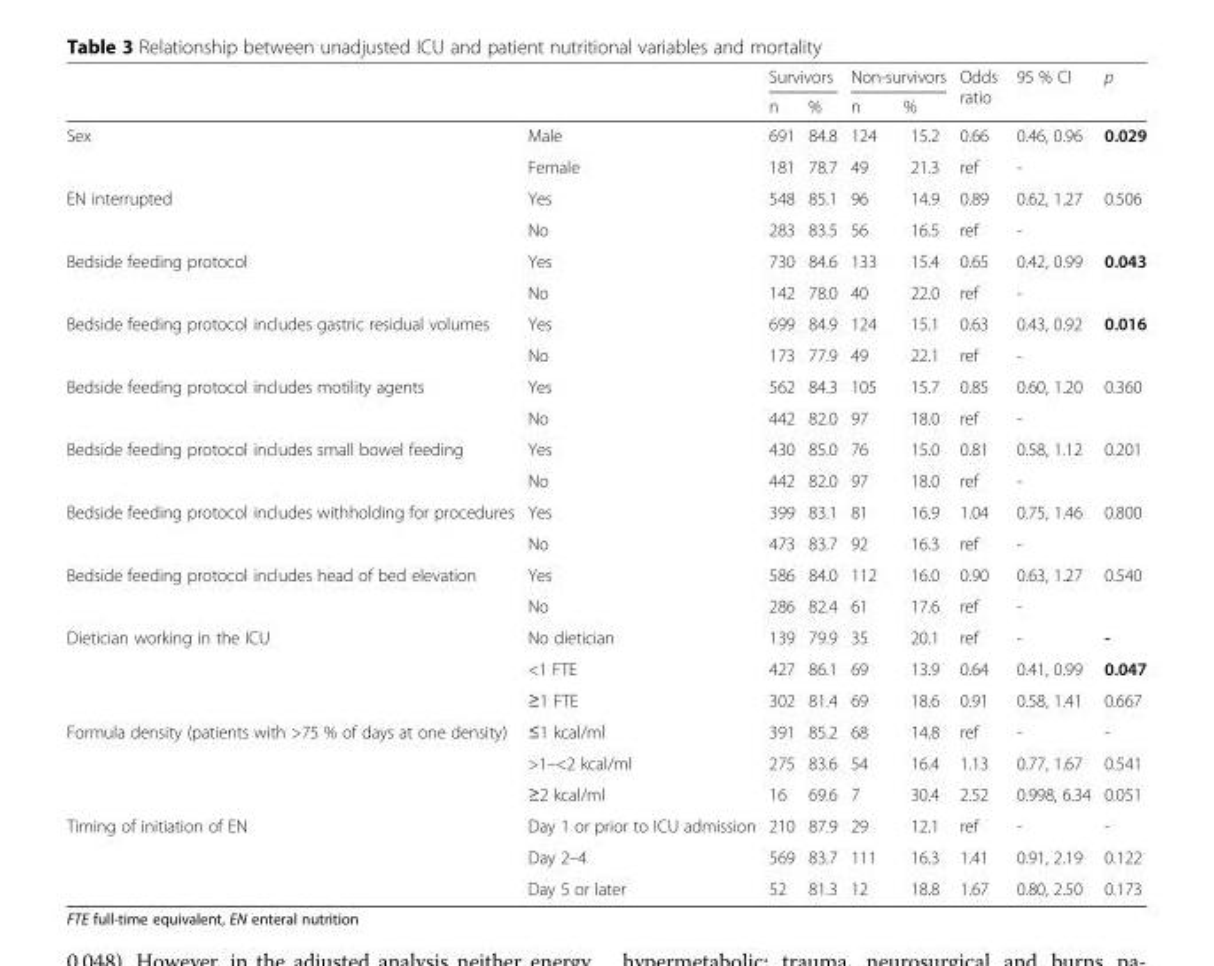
<table><thead><tr><td rowspan="2"></td><td rowspan="2"></td><td colspan="2">Survivors</td><td colspan="2">Non-survivors</td><td rowspan="2">Odds ratio</td><td rowspan="2">95 % CI</td><td rowspan="2">p</td></tr><tr><td>n</td><td>%</td><td>n</td><td>%</td></tr></thead><tbody><tr><td rowspan="2">Sex</td><td>Male</td><td>691</td><td>84.8</td><td>124</td><td>15.2</td><td>0.66</td><td>0.46, 0.96</td><td rowspan="2">0.029</td></tr><tr><td>Female</td><td>181</td><td>78.7</td><td>49</td><td>21.3</td><td>ref</td><td>-</td></tr><tr><td rowspan="2">EN interrupted</td><td>Yes</td><td>548</td><td>85.1</td><td>96</td><td>14.9</td><td>0.89</td><td>0.62, 1.27</td><td rowspan="2">0.506</td></tr><tr><td>No</td><td>283</td><td>83.5</td><td>56</td><td>16.5</td><td>ref</td><td>-</td></tr><tr><td rowspan="2">Bedside feeding protocol</td><td>Yes</td><td>730</td><td>84.6</td><td>133</td><td>15.4</td><td>0.65</td><td>0.42, 0.99</td><td rowspan="2">0.043</td></tr><tr><td>No</td><td>142</td><td>78.0</td><td>40</td><td>22.0</td><td>ref</td><td>-</td></tr><tr><td rowspan="2">Bedside feeding protocol includes gastric residual volumes</td><td>Yes</td><td>699</td><td>84.9</td><td>124</td><td>15.1</td><td>0.63</td><td>0.43, 0.92</td><td rowspan="2">0.016</td></tr><tr><td>No</td><td>173</td><td>77.9</td><td>49</td><td>22.1</td><td>ref</td><td>-</td></tr><tr><td rowspan="2">Bedside feeding protocol includes motility agents</td><td>Yes</td><td>562</td><td>84.3</td><td>105</td><td>15.7</td><td>0.85</td><td>0.60, 1.20</td><td rowspan="2">0.360</td></tr><tr><td>No</td><td>442</td><td>82.0</td><td>97</td><td>18.0</td><td>ref</td><td>-</td></tr><tr><td rowspan="2">Bedside feeding protocol includes small bowel feeding</td><td>Yes</td><td>430</td><td>85.0</td><td>76</td><td>15.0</td><td>0.81</td><td>0.58, 1.12</td><td rowspan="2">0.201</td></tr><tr><td>No</td><td>442</td><td>82.0</td><td>97</td><td>18.0</td><td>ref</td><td>-</td></tr><tr><td rowspan="2">Bedside feeding protocol includes withholding for procedures</td><td>Yes</td><td>399</td><td>83.1</td><td>81</td><td>16.9</td><td>1.04</td><td>0.75, 1.46</td><td rowspan="2">0.800</td></tr><tr><td>No</td><td>473</td><td>83.7</td><td>92</td><td>16.3</td><td>ref</td><td>-</td></tr><tr><td rowspan="2">Bedside feeding protocol includes head of bed elevation</td><td>Yes</td><td>586</td><td>84.0</td><td>112</td><td>16.0</td><td>0.90</td><td>0.63, 1.27</td><td rowspan="2">0.540</td></tr><tr><td>No</td><td>286</td><td>82.4</td><td>61</td><td>17.6</td><td>ref</td><td>-</td></tr><tr><td rowspan="3">Dietician working in the ICU</td><td>No dietician</td><td>139</td><td>79.9</td><td>35</td><td>20.1</td><td>ref</td><td>-</td><td>-</td></tr><tr><td>&lt;1 FTE</td><td>427</td><td>86.1</td><td>69</td><td>13.9</td><td>0.64</td><td>0.41, 0.99</td><td>0.047</td></tr><tr><td>≥1 FTE</td><td>302</td><td>81.4</td><td>69</td><td>18.6</td><td>0.91</td><td>0.58, 1.41</td><td>0.667</td></tr><tr><td rowspan="3">Formula density (patients with &gt;75 % of days at one density)</td><td>≤1 kcal/ml</td><td>391</td><td>85.2</td><td>68</td><td>14.8</td><td>ref</td><td>-</td><td>-</td></tr><tr><td>&gt;1–&lt;2 kcal/ml</td><td>275</td><td>83.6</td><td>54</td><td>16.4</td><td>1.13</td><td>0.77, 1.67</td><td>0.541</td></tr><tr><td>≥2 kcal/ml</td><td>16</td><td>69.6</td><td>7</td><td>30.4</td><td>2.52</td><td>0.998, 6.34</td><td>0.051</td></tr><tr><td rowspan="3">Timing of initiation of EN</td><td>Day 1 or prior to ICU admission</td><td>210</td><td>87.9</td><td>29</td><td>12.1</td><td>ref</td><td>-</td><td>-</td></tr><tr><td>Day 2–4</td><td>569</td><td>83.7</td><td>111</td><td>16.3</td><td>1.41</td><td>0.91, 2.19</td><td>0.122</td></tr><tr><td>Day 5 or later</td><td>52</td><td>81.3</td><td>12</td><td>18.8</td><td>1.67</td><td>0.80, 2.50</td><td>0.173</td></tr></tbody></table>